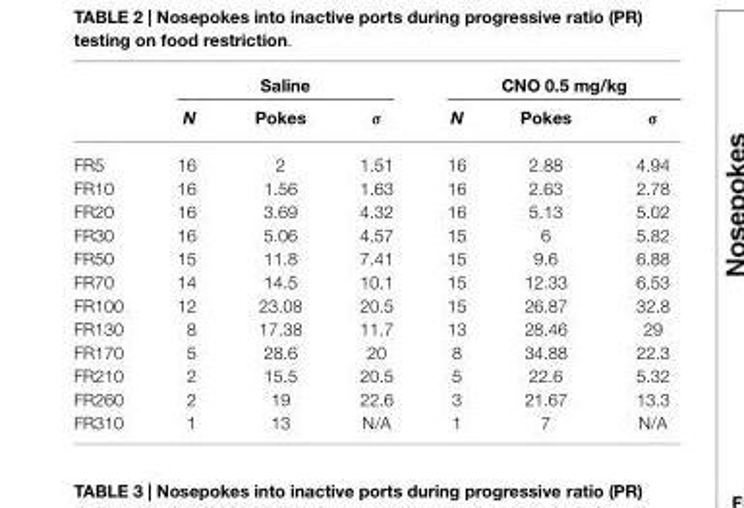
<table><thead><tr><td rowspan="2"></td><td colspan="3">Saline</td><td colspan="3">CNO 0.5 mg/kg</td></tr><tr><td>N</td><td>Pokes</td><td>σ</td><td>N</td><td>Pokes</td><td>σ</td></tr></thead><tbody><tr><td>FR5</td><td>16</td><td>2</td><td>1.51</td><td>16</td><td>2.88</td><td>4.94</td></tr><tr><td>FR10</td><td>16</td><td>1.56</td><td>1.63</td><td>16</td><td>2.63</td><td>2.78</td></tr><tr><td>FR20</td><td>16</td><td>3.69</td><td>4.32</td><td>16</td><td>5.13</td><td>5.02</td></tr><tr><td>FR30</td><td>16</td><td>5.06</td><td>4.57</td><td>15</td><td>6</td><td>5.82</td></tr><tr><td>FR50</td><td>15</td><td>11.8</td><td>7.41</td><td>15</td><td>9.6</td><td>6.88</td></tr><tr><td>FR70</td><td>14</td><td>14.5</td><td>10.1</td><td>15</td><td>12.33</td><td>6.53</td></tr><tr><td>FR100</td><td>12</td><td>23.08</td><td>20.5</td><td>15</td><td>26.87</td><td>32.8</td></tr><tr><td>FR130</td><td>8</td><td>17.38</td><td>11.7</td><td>13</td><td>28.46</td><td>29</td></tr><tr><td>FR170</td><td>5</td><td>28.6</td><td>20</td><td>8</td><td>34.88</td><td>22.3</td></tr><tr><td>FR210</td><td>2</td><td>15.5</td><td>20.5</td><td>5</td><td>22.6</td><td>5.32</td></tr><tr><td>FR260</td><td>2</td><td>19</td><td>22.6</td><td>3</td><td>21.67</td><td>13.3</td></tr><tr><td>FR310</td><td>1</td><td>13</td><td>N/A</td><td>1</td><td>7</td><td>N/A</td></tr></tbody></table>